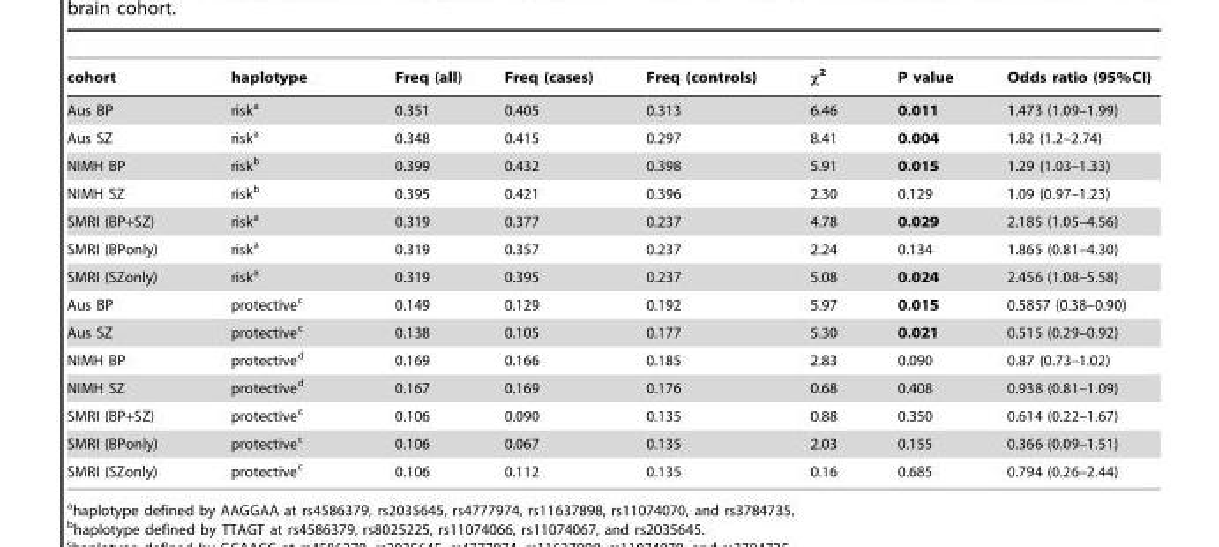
<table><thead><tr><td>cohort</td><td>haplotype</td><td>Freq (all)</td><td>Freq (cases)</td><td>Freq (controls)</td><td>χ<sup>2</sup></td><td>P value</td><td>Odds ratio (95%CI)</td></tr></thead><tbody><tr><td>Aus BP</td><td>risk<sup>a</sup></td><td>0.351</td><td>0.405</td><td>0.313</td><td>6.46</td><td>0.011</td><td>1.473 (1.09–1.99)</td></tr><tr><td>Aus SZ</td><td>risk<sup>a</sup></td><td>0.348</td><td>0.415</td><td>0.297</td><td>8.41</td><td>0.004</td><td>1.82 (1.2–2.74)</td></tr><tr><td>NIMH BP</td><td>risk<sup>b</sup></td><td>0.399</td><td>0.432</td><td>0.398</td><td>5.91</td><td>0.015</td><td>1.29 (1.03–1.33)</td></tr><tr><td>NIMH SZ</td><td>risk<sup>b</sup></td><td>0.395</td><td>0.421</td><td>0.396</td><td>2.30</td><td>0.129</td><td>1.09 (0.97–1.23)</td></tr><tr><td>SMRI (BP+SZ)</td><td>risk<sup>a</sup></td><td>0.319</td><td>0.377</td><td>0.237</td><td>4.78</td><td>0.029</td><td>2.185 (1.05–4.56)</td></tr><tr><td>SMRI (BPonly)</td><td>risk<sup>a</sup></td><td>0.319</td><td>0.357</td><td>0.237</td><td>2.24</td><td>0.134</td><td>1.865 (0.81–4.30)</td></tr><tr><td>SMRI (SZonly)</td><td>risk<sup>a</sup></td><td>0.319</td><td>0.395</td><td>0.237</td><td>5.08</td><td>0.024</td><td>2.456 (1.08–5.58)</td></tr><tr><td>Aus BP</td><td>protective<sup>c</sup></td><td>0.149</td><td>0.129</td><td>0.192</td><td>5.97</td><td>0.015</td><td>0.5857 (0.38–0.90)</td></tr><tr><td>Aus SZ</td><td>protective<sup>c</sup></td><td>0.138</td><td>0.105</td><td>0.177</td><td>5.30</td><td>0.021</td><td>0.515 (0.29–0.92)</td></tr><tr><td>NIMH BP</td><td>protective<sup>d</sup></td><td>0.169</td><td>0.166</td><td>0.185</td><td>2.83</td><td>0.090</td><td>0.87 (0.73–1.02)</td></tr><tr><td>NIMH SZ</td><td>protective<sup>d</sup></td><td>0.167</td><td>0.169</td><td>0.176</td><td>0.68</td><td>0.408</td><td>0.938 (0.81–1.09)</td></tr><tr><td>SMRI (BP+SZ)</td><td>protective<sup>c</sup></td><td>0.106</td><td>0.090</td><td>0.135</td><td>0.88</td><td>0.350</td><td>0.614 (0.22–1.67)</td></tr><tr><td>SMRI (BPonly)</td><td>protective<sup>c</sup></td><td>0.106</td><td>0.067</td><td>0.135</td><td>2.03</td><td>0.155</td><td>0.366 (0.09–1.51)</td></tr><tr><td>SMRI (SZonly)</td><td>protective<sup>c</sup></td><td>0.106</td><td>0.112</td><td>0.135</td><td>0.16</td><td>0.685</td><td>0.794 (0.26–2.44)</td></tr></tbody></table>